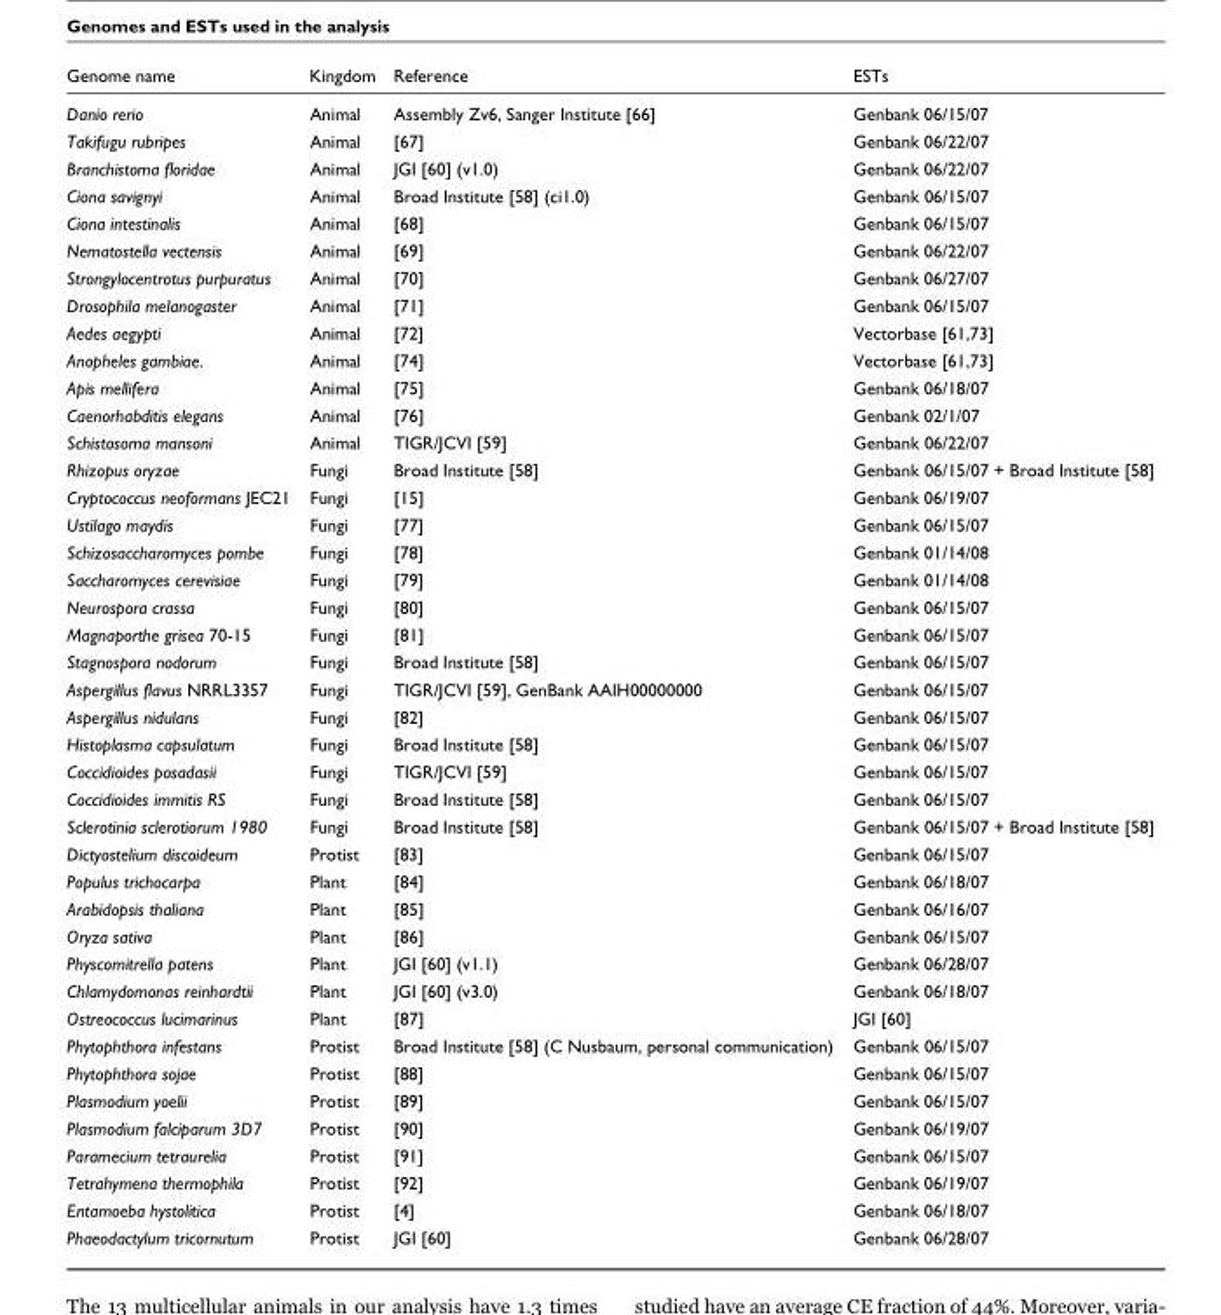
<table><thead><tr><td>Genome name</td><td>Kingdom</td><td>Reference</td><td>ESTs</td></tr></thead><tbody><tr><td>Danio rerio</td><td>Animal</td><td>Assembly Zv6, Sanger Institute [66]</td><td>Genbank 06/15/07</td></tr><tr><td>Takifugu rubripes</td><td>Animal</td><td>[67]</td><td>Genbank 06/22/07</td></tr><tr><td>Branchistoma floridae</td><td>Animal</td><td>JGI [60] (v1.0)</td><td>Genbank 06/22/07</td></tr><tr><td>Ciona savignyi</td><td>Animal</td><td>Broad Institute [58] (ci1.0)</td><td>Genbank 06/15/07</td></tr><tr><td>Ciona intestinalis</td><td>Animal</td><td>[68]</td><td>Genbank 06/15/07</td></tr><tr><td>Nematostella vectensis</td><td>Animal</td><td>[69]</td><td>Genbank 06/22/07</td></tr><tr><td>Strongylocentrotus purpuratus</td><td>Animal</td><td>[70]</td><td>Genbank 06/27/07</td></tr><tr><td>Drosophila melanogaster</td><td>Animal</td><td>[71]</td><td>Genbank 06/15/07</td></tr><tr><td>Aedes aegypti</td><td>Animal</td><td>[72]</td><td>Vectorbase [61,73]</td></tr><tr><td>Anopheles gambiae.</td><td>Animal</td><td>[74]</td><td>Vectorbase [61,73]</td></tr><tr><td>Apis mellifera</td><td>Animal</td><td>[75]</td><td>Genbank 06/18/07</td></tr><tr><td>Caenorhabditis elegans</td><td>Animal</td><td>[76]</td><td>Genbank 02/1/07</td></tr><tr><td>Schistosoma mansoni</td><td>Animal</td><td>TIGR/JCVI [59]</td><td>Genbank 06/22/07</td></tr><tr><td>Rhizopus oryzae</td><td>Fungi</td><td>Broad Institute [58]</td><td>Genbank 06/15/07 + Broad Institute [58]</td></tr><tr><td>Cryptococcus neoformans JEC21</td><td>Fungi</td><td>[15]</td><td>Genbank 06/19/07</td></tr><tr><td>Ustilago maydis</td><td>Fungi</td><td>[77]</td><td>Genbank 06/15/07</td></tr><tr><td>Schizosaccharomyces pombe</td><td>Fungi</td><td>[78]</td><td>Genbank 01/14/08</td></tr><tr><td>Saccharomyces cerevisiae</td><td>Fungi</td><td>[79]</td><td>Genbank 01/14/08</td></tr><tr><td>Neurospora crassa</td><td>Fungi</td><td>[80]</td><td>Genbank 06/15/07</td></tr><tr><td>Magnaporthe grisea 70-15</td><td>Fungi</td><td>[81]</td><td>Genbank 06/15/07</td></tr><tr><td>Stagnospora nodorum</td><td>Fungi</td><td>Broad Institute [58]</td><td>Genbank 06/15/07</td></tr><tr><td>Aspergillus flavus NRRL3357</td><td>Fungi</td><td>TIGR/JCVI [59], GenBank AAIH00000000</td><td>Genbank 06/15/07</td></tr><tr><td>Aspergillus nidulans</td><td>Fungi</td><td>[82]</td><td>Genbank 06/15/07</td></tr><tr><td>Histoplasma capsulatum</td><td>Fungi</td><td>Broad Institute [58]</td><td>Genbank 06/15/07</td></tr><tr><td>Coccidioides posadasii</td><td>Fungi</td><td>TIGR/JCVI [59]</td><td>Genbank 06/15/07</td></tr><tr><td>Coccidioides immitis RS</td><td>Fungi</td><td>Broad Institute [58]</td><td>Genbank 06/15/07</td></tr><tr><td>Sclerotinia sclerotiorum 1980</td><td>Fungi</td><td>Broad Institute [58]</td><td>Genbank 06/15/07 + Broad Institute [58]</td></tr><tr><td>Dictyostelium discoideum</td><td>Protist</td><td>[83]</td><td>Genbank 06/15/07</td></tr><tr><td>Populus trichocarpa</td><td>Plant</td><td>[84]</td><td>Genbank 06/18/07</td></tr><tr><td>Arabidopsis thaliana</td><td>Plant</td><td>[85]</td><td>Genbank 06/16/07</td></tr><tr><td>Oryza sativa</td><td>Plant</td><td>[86]</td><td>Genbank 06/15/07</td></tr><tr><td>Physcomitrella patens</td><td>Plant</td><td>JGI [60] (v1.1)</td><td>Genbank 06/28/07</td></tr><tr><td>Chlamydomonas reinhardtii</td><td>Plant</td><td>JGI [60] (v3.0)</td><td>Genbank 06/18/07</td></tr><tr><td>Ostreococcus lucimarinus</td><td>Plant</td><td>[87]</td><td>JGI [60]</td></tr><tr><td>Phytophthora infestans</td><td>Protist</td><td>Broad Institute [58] (C Nusbaum, personal communication)</td><td>Genbank 06/15/07</td></tr><tr><td>Phytophthora sojae</td><td>Protist</td><td>[88]</td><td>Genbank 06/15/07</td></tr><tr><td>Plasmodium yoelii</td><td>Protist</td><td>[89]</td><td>Genbank 06/15/07</td></tr><tr><td>Plasmodium falciparum 3D7</td><td>Protist</td><td>[90]</td><td>Genbank 06/19/07</td></tr><tr><td>Paramecium tetraurelia</td><td>Protist</td><td>[91]</td><td>Genbank 06/15/07</td></tr><tr><td>Tetrahymena thermophila</td><td>Protist</td><td>[92]</td><td>Genbank 06/19/07</td></tr><tr><td>Entamoeba hystolitica</td><td>Protist</td><td>[4]</td><td>Genbank 06/18/07</td></tr><tr><td>Phaeodactylum tricornutum</td><td>Protist</td><td>JGI [60]</td><td>Genbank 06/28/07</td></tr></tbody></table>